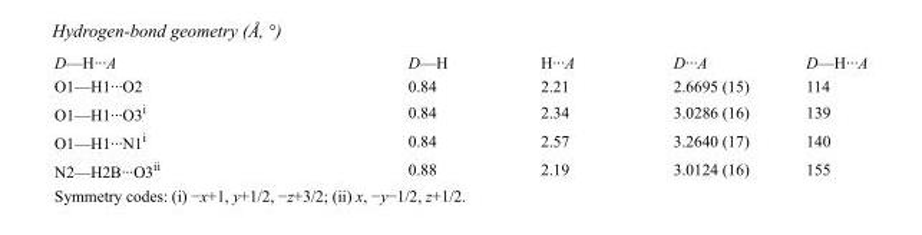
<table><tbody><tr><td>D—H···A</td><td>D—H</td><td>H···A</td><td>D···A</td><td>D—H···A</td></tr><tr><td>O1—H1···O2</td><td>0.84</td><td>2.21</td><td>2.6695 (15)</td><td>114</td></tr><tr><td>O1—H1···O3<sup>i</sup></td><td>0.84</td><td>2.34</td><td>3.0286 (16)</td><td>139</td></tr><tr><td>O1—H1···N1<sup>i</sup></td><td>0.84</td><td>2.57</td><td>3.2640 (17)</td><td>140</td></tr><tr><td>N2—H2B···O3<sup>ii</sup></td><td>0.88</td><td>2.19</td><td>3.0124 (16)</td><td>155</td></tr></tbody></table>